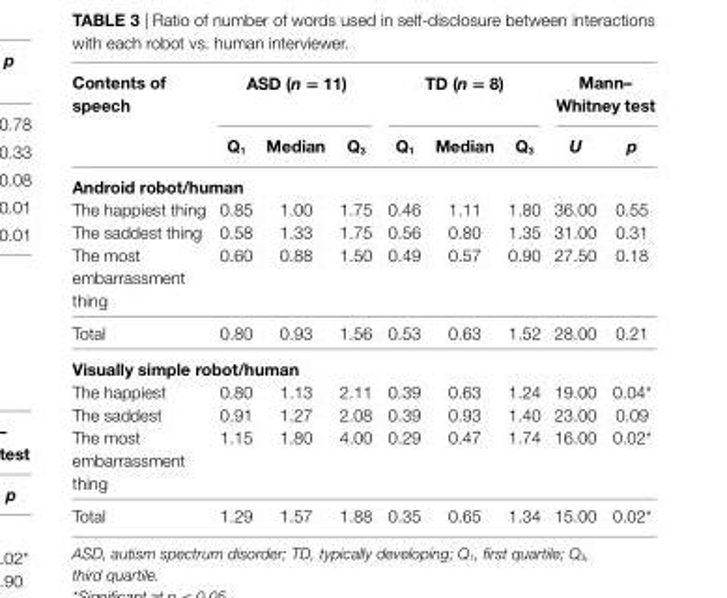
<table><thead><tr><td rowspan="2">contents of speech</td><td colspan="3">asD (n = 11)</td><td colspan="3">TD (n = 8)</td><td colspan="2">Mann– Whitney test</td></tr><tr><td>Q<sub>1</sub></td><td>Median</td><td>Q<sub>3</sub></td><td>Q<sub>1</sub></td><td>Median</td><td>Q<sub>3</sub></td><td>U</td><td>p</td></tr></thead><tbody><tr><td colspan="9">android robot/human</td></tr><tr><td>The happiest thing</td><td>0.85</td><td>1.00</td><td>1.75</td><td>0.46</td><td>1.11</td><td>1.80</td><td>36.00</td><td>0.55</td></tr><tr><td>The saddest thing</td><td>0.58</td><td>1.33</td><td>1.75</td><td>0.56</td><td>0.80</td><td>1.35</td><td>31.00</td><td>0.31</td></tr><tr><td>The most embarrassment thing</td><td>0.60</td><td>0.88</td><td>1.50</td><td>0.49</td><td>0.57</td><td>0.90</td><td>27.50</td><td>0.18</td></tr><tr><td>Total</td><td>0.80</td><td>0.93</td><td>1.56</td><td>0.53</td><td>0.63</td><td>1.52</td><td>28.00</td><td>0.21</td></tr><tr><td colspan="9">Visually simple robot/human</td></tr><tr><td>The happiest</td><td>0.80</td><td>1.13</td><td>2.11</td><td>0.39</td><td>0.63</td><td>1.24</td><td>19.00</td><td>0.04*</td></tr><tr><td>The saddest</td><td>0.91</td><td>1.27</td><td>2.08</td><td>0.39</td><td>0.93</td><td>1.40</td><td>23.00</td><td>0.09</td></tr><tr><td>The most embarrassment thing</td><td>1.15</td><td>1.80</td><td>4.00</td><td>0.29</td><td>0.47</td><td>1.74</td><td>16.00</td><td>0.02*</td></tr><tr><td>Total</td><td>1.29</td><td>1.57</td><td>1.88</td><td>0.35</td><td>0.65</td><td>1.34</td><td>15.00</td><td>0.02*</td></tr></tbody></table>